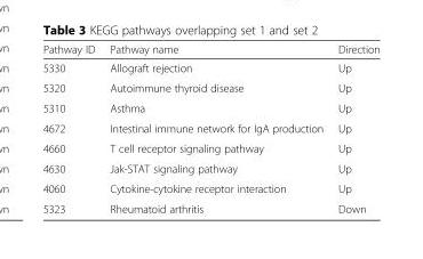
<table><thead><tr><td>Pathway ID</td><td>Pathway name</td><td>Direction</td></tr></thead><tbody><tr><td>5330</td><td>Allograft rejection</td><td>Up</td></tr><tr><td>5320</td><td>Autoimmune thyroid disease</td><td>Up</td></tr><tr><td>5310</td><td>Asthma</td><td>Up</td></tr><tr><td>4672</td><td>Intestinal immune network for IgA production</td><td>Up</td></tr><tr><td>4660</td><td>T cell receptor signaling pathway</td><td>Up</td></tr><tr><td>4630</td><td>Jak-STAT signaling pathway</td><td>Up</td></tr><tr><td>4060</td><td>Cytokine-cytokine receptor interaction</td><td>Up</td></tr><tr><td>5323</td><td>Rheumatoid arthritis</td><td>Down</td></tr></tbody></table>